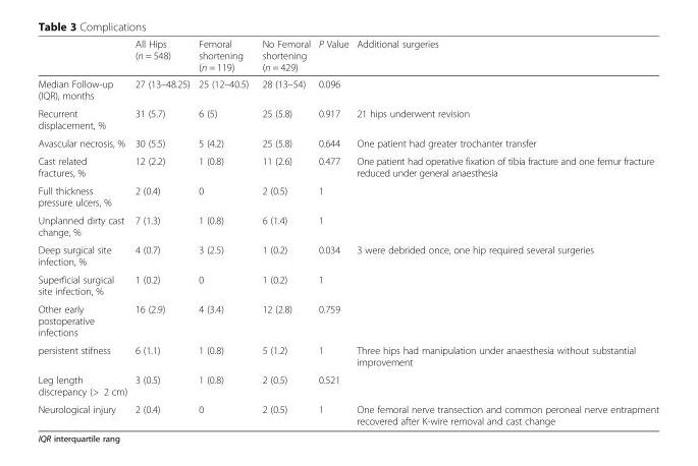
<table><thead><tr><td></td><td>All Hips (n = 548)</td><td>Femoral shortening (n = 119)</td><td>No Femoral shortening (n = 429)</td><td>P Value</td><td>Additional surgeries</td></tr></thead><tbody><tr><td>Median Follow-up (IQR), months</td><td>27 (13–48.25)</td><td>25 (12–40.5)</td><td>28 (13–54)</td><td>0.096</td><td></td></tr><tr><td>Recurrent displacement, %</td><td>31 (5.7)</td><td>6 (5)</td><td>25 (5.8)</td><td>0.917</td><td>21 hips underwent revision</td></tr><tr><td>Avascular necrosis, %</td><td>30 (5.5)</td><td>5 (4.2)</td><td>25 (5.8)</td><td>0.644</td><td>One patient had greater trochanter transfer</td></tr><tr><td>Cast related fractures, %</td><td>12 (2.2)</td><td>1 (0.8)</td><td>11 (2.6)</td><td>0.477</td><td>One patient had operative fixation of tibia fracture and one femur fracture reduced under general anaesthesia</td></tr><tr><td>Full thickness pressure ulcers, %</td><td>2 (0.4)</td><td>0</td><td>2 (0.5)</td><td>1</td><td></td></tr><tr><td>Unplanned dirty cast change, %</td><td>7 (1.3)</td><td>1 (0.8)</td><td>6 (1.4)</td><td>1</td><td></td></tr><tr><td>Deep surgical site infection, %</td><td>4 (0.7)</td><td>3 (2.5)</td><td>1 (0.2)</td><td>0.034</td><td>3 were debrided once, one hip required several surgeries</td></tr><tr><td>Superficial surgical site infection, %</td><td>1 (0.2)</td><td>0</td><td>1 (0.2)</td><td>1</td><td></td></tr><tr><td>Other early postoperative infections</td><td>16 (2.9)</td><td>4 (3.4)</td><td>12 (2.8)</td><td>0.759</td><td></td></tr><tr><td>persistent stifness</td><td>6 (1.1)</td><td>1 (0.8)</td><td>5 (1.2)</td><td>1</td><td>Three hips had manipulation under anaesthesia without substantial improvement</td></tr><tr><td>Leg length discrepancy (&gt; 2 cm)</td><td>3 (0.5)</td><td>1 (0.8)</td><td>2 (0.5)</td><td>0.521</td><td></td></tr><tr><td>Neurological injury</td><td>2 (0.4)</td><td>0</td><td>2 (0.5)</td><td>1</td><td>One femoral nerve transection and common peroneal nerve entrapment recovered after K-wire removal and cast change</td></tr></tbody></table>